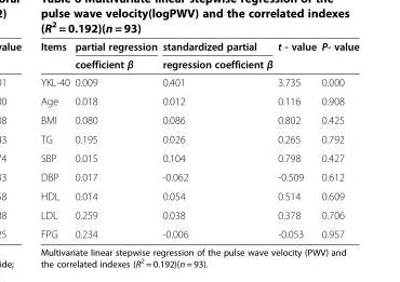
<table><thead><tr><td>Items</td><td>partial regression</td><td>standardized partial</td><td>t - value</td><td>P- value</td></tr></thead><tbody><tr><td></td><td>coefficient β</td><td>regression coefficient β</td><td></td><td></td></tr><tr><td>YKL-40</td><td>0.009</td><td>0.401</td><td>3.735</td><td>0.000</td></tr><tr><td>Age</td><td>0.018</td><td>0.012</td><td>0.116</td><td>0.908</td></tr><tr><td>BMI</td><td>0.080</td><td>0.086</td><td>0.802</td><td>0.425</td></tr><tr><td>TG</td><td>0.195</td><td>0.026</td><td>0.265</td><td>0.792</td></tr><tr><td>SBP</td><td>0.015</td><td>0.104</td><td>0.798</td><td>0.427</td></tr><tr><td>DBP</td><td>0.017</td><td>-0.062</td><td>-0.509</td><td>0.612</td></tr><tr><td>HDL</td><td>0.014</td><td>0.054</td><td>0.514</td><td>0.609</td></tr><tr><td>LDL</td><td>0.259</td><td>0.038</td><td>0.378</td><td>0.706</td></tr><tr><td>FPG</td><td>0.234</td><td>-0.006</td><td>-0.053</td><td>0.957</td></tr></tbody></table>